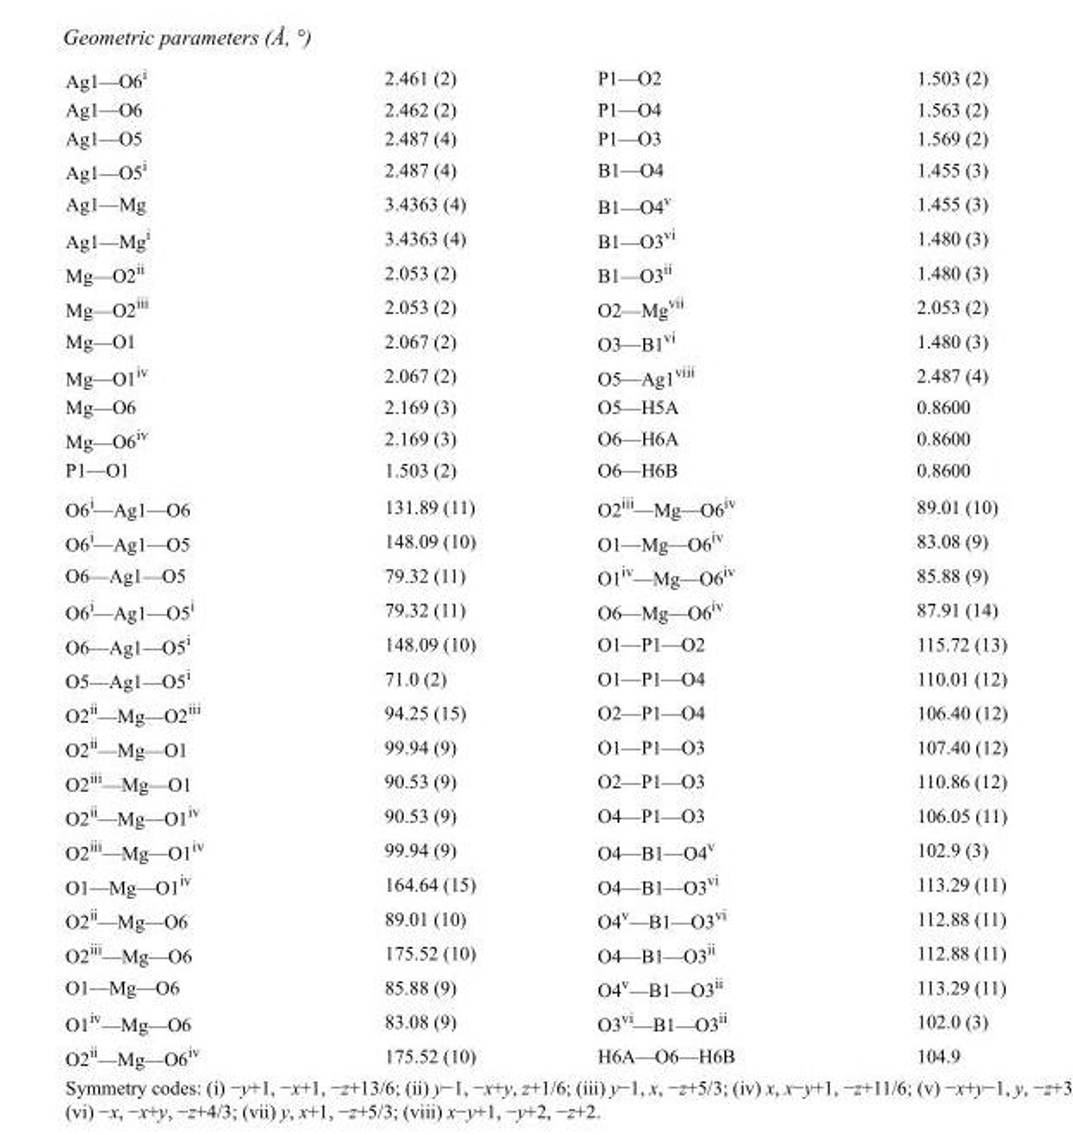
<table><tbody><tr><td>Ag1—O6<sup>i</sup></td><td>2.461 (2)</td><td>P1—O2</td><td>1.503 (2)</td></tr><tr><td>Ag1—O6</td><td>2.462 (2)</td><td>P1—O4</td><td>1.563 (2)</td></tr><tr><td>Ag1—O5</td><td>2.487 (4)</td><td>P1—O3</td><td>1.569 (2)</td></tr><tr><td>Ag1—O5<sup>i</sup></td><td>2.487 (4)</td><td>B1—O4</td><td>1.455 (3)</td></tr><tr><td>Ag1—Mg</td><td>3.4363 (4)</td><td>B1—O4<sup>v</sup></td><td>1.455 (3)</td></tr><tr><td>Ag1—Mg<sup>i</sup></td><td>3.4363 (4)</td><td>B1—O3<sup>vi</sup></td><td>1.480 (3)</td></tr><tr><td>Mg—O2<sup>ii</sup></td><td>2.053 (2)</td><td>B1—O3<sup>ii</sup></td><td>1.480 (3)</td></tr><tr><td>Mg—O2<sup>iii</sup></td><td>2.053 (2)</td><td>O2—Mg<sup>vii</sup></td><td>2.053 (2)</td></tr><tr><td>Mg—O1</td><td>2.067 (2)</td><td>O3—B1<sup>vi</sup></td><td>1.480 (3)</td></tr><tr><td>Mg—O1<sup>iv</sup></td><td>2.067 (2)</td><td>O5—Ag1<sup>viii</sup></td><td>2.487 (4)</td></tr><tr><td>Mg—O6</td><td>2.169 (3)</td><td>O5—H5A</td><td>0.8600</td></tr><tr><td>Mg—O6<sup>iv</sup></td><td>2.169 (3)</td><td>O6—H6A</td><td>0.8600</td></tr><tr><td>P1—O1</td><td>1.503 (2)</td><td>O6—H6B</td><td>0.8600</td></tr><tr><td>O6<sup>i</sup>—Ag1—O6</td><td>131.89 (11)</td><td>O2<sup>iii</sup>—Mg—O6<sup>iv</sup></td><td>89.01 (10)</td></tr><tr><td>O6<sup>i</sup>—Ag1—O5</td><td>148.09 (10)</td><td>O1—Mg—O6<sup>iv</sup></td><td>83.08 (9)</td></tr><tr><td>O6—Ag1—O5</td><td>79.32 (11)</td><td>O1<sup>iv</sup>—Mg—O6<sup>iv</sup></td><td>85.88 (9)</td></tr><tr><td>O6<sup>i</sup>—Ag1—O5<sup>i</sup></td><td>79.32 (11)</td><td>O6—Mg—O6<sup>iv</sup></td><td>87.91 (14)</td></tr><tr><td>O6—Ag1—O5<sup>i</sup></td><td>148.09 (10)</td><td>O1—P1—O2</td><td>115.72 (13)</td></tr><tr><td>O5—Ag1—O5<sup>i</sup></td><td>71.0 (2)</td><td>O1—P1—O4</td><td>110.01 (12)</td></tr><tr><td>O2<sup>ii</sup>—Mg—O2<sup>iii</sup></td><td>94.25 (15)</td><td>O2—P1—O4</td><td>106.40 (12)</td></tr><tr><td>O2<sup>ii</sup>—Mg—O1</td><td>99.94 (9)</td><td>O1—P1—O3</td><td>107.40 (12)</td></tr><tr><td>O2<sup>iii</sup>—Mg—O1</td><td>90.53 (9)</td><td>O2—P1—O3</td><td>110.86 (12)</td></tr><tr><td>O2<sup>ii</sup>—Mg—O1<sup>iv</sup></td><td>90.53 (9)</td><td>O4—P1—O3</td><td>106.05 (11)</td></tr><tr><td>O2<sup>iii</sup>—Mg—O1<sup>iv</sup></td><td>99.94 (9)</td><td>O4—B1—O4<sup>v</sup></td><td>102.9 (3)</td></tr><tr><td>O1—Mg—O1<sup>iv</sup></td><td>164.64 (15)</td><td>O4—B1—O3<sup>vi</sup></td><td>113.29 (11)</td></tr><tr><td>O2<sup>ii</sup>—Mg—O6</td><td>89.01 (10)</td><td>O4<sup>v</sup>—B1—O3<sup>vi</sup></td><td>112.88 (11)</td></tr><tr><td>O2<sup>iii</sup>—Mg—O6</td><td>175.52 (10)</td><td>O4—B1—O3<sup>ii</sup></td><td>112.88 (11)</td></tr><tr><td>O1—Mg—O6</td><td>85.88 (9)</td><td>O4<sup>v</sup>—B1—O3<sup>ii</sup></td><td>113.29 (11)</td></tr><tr><td>O1<sup>iv</sup>—Mg—O6</td><td>83.08 (9)</td><td>O3<sup>vi</sup>—B1—O3<sup>ii</sup></td><td>102.0 (3)</td></tr><tr><td>O2<sup>ii</sup>—Mg—O6<sup>iv</sup></td><td>175.52 (10)</td><td>H6A—O6—H6B</td><td>104.9</td></tr></tbody></table>